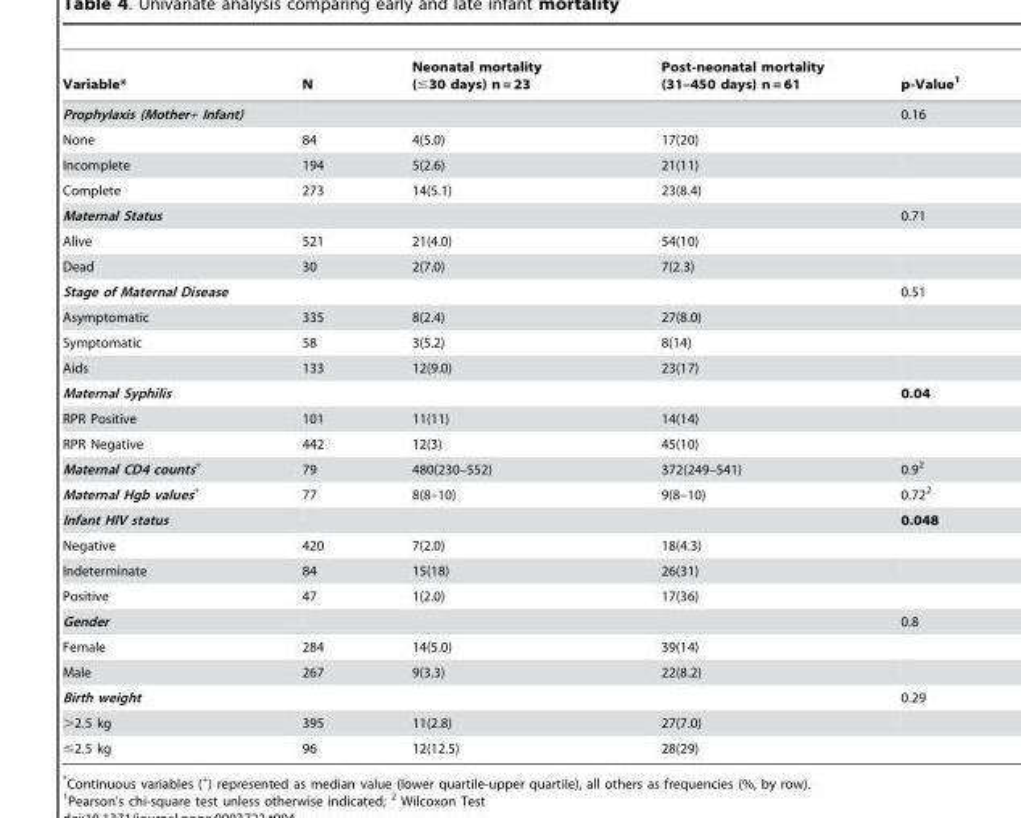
<table><thead><tr><td>Variable*</td><td>N</td><td>Neonatal mortality (≤30 days) n = 23</td><td>Post-neonatal mortality (31–450 days) n = 61</td><td>p-Value<sup>1</sup></td></tr></thead><tbody><tr><td>Prophylaxis (Mother+ Infant)</td><td></td><td></td><td></td><td>0.16</td></tr><tr><td>None</td><td>84</td><td>4(5.0)</td><td>17(20)</td><td></td></tr><tr><td>Incomplete</td><td>194</td><td>5(2.6)</td><td>21(11)</td><td></td></tr><tr><td>Complete</td><td>273</td><td>14(5.1)</td><td>23(8.4)</td><td></td></tr><tr><td>Maternal Status</td><td></td><td></td><td></td><td>0.71</td></tr><tr><td>Alive</td><td>521</td><td>21(4.0)</td><td>54(10)</td><td></td></tr><tr><td>Dead</td><td>30</td><td>2(7.0)</td><td>7(2.3)</td><td></td></tr><tr><td>Stage of Maternal Disease</td><td></td><td></td><td></td><td>0.51</td></tr><tr><td>Asymptomatic</td><td>335</td><td>8(2.4)</td><td>27(8.0)</td><td></td></tr><tr><td>Symptomatic</td><td>58</td><td>3(5.2)</td><td>8(14)</td><td></td></tr><tr><td>Aids</td><td>133</td><td>12(9.0)</td><td>23(17)</td><td></td></tr><tr><td>Maternal Syphilis</td><td></td><td></td><td></td><td>0.04</td></tr><tr><td>RPR Positive</td><td>101</td><td>11(11)</td><td>14(14)</td><td></td></tr><tr><td>RPR Negative</td><td>442</td><td>12(3)</td><td>45(10)</td><td></td></tr><tr><td>Maternal CD4 counts<sup>+</sup></td><td>79</td><td>480(230–552)</td><td>372(249–541)</td><td>0.9<sup>2</sup></td></tr><tr><td>Maternal Hgb values<sup>+</sup></td><td>77</td><td>8(8–10)</td><td>9(8–10)</td><td>0.72<sup>2</sup></td></tr><tr><td>Infant HIV status</td><td></td><td></td><td></td><td>0.048</td></tr><tr><td>Negative</td><td>420</td><td>7(2.0)</td><td>18(4.3)</td><td></td></tr><tr><td>Indeterminate</td><td>84</td><td>15(18)</td><td>26(31)</td><td></td></tr><tr><td>Positive</td><td>47</td><td>1(2.0)</td><td>17(36)</td><td></td></tr><tr><td>Gender</td><td></td><td></td><td></td><td>0.8</td></tr><tr><td>Female</td><td>284</td><td>14(5.0)</td><td>39(14)</td><td></td></tr><tr><td>Male</td><td>267</td><td>9(3.3)</td><td>22(8.2)</td><td></td></tr><tr><td>Birth weight</td><td></td><td></td><td></td><td>0.29</td></tr><tr><td>&gt;2.5 kg</td><td>395</td><td>11(2.8)</td><td>27(7.0)</td><td></td></tr><tr><td>≤2.5 kg</td><td>96</td><td>12(12.5)</td><td>28(29)</td><td></td></tr></tbody></table>